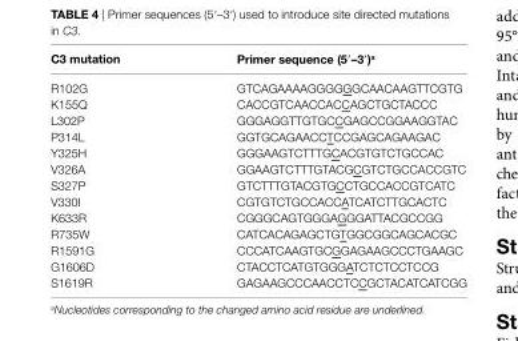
<table><thead><tr><td>c3 mutation</td><td>Primer sequence (5′–3′)<sup>a</sup></td></tr></thead><tbody><tr><td>R102G</td><td>GTCAGAAAAGGGGGGCAACAAGTTCGTG</td></tr><tr><td>K155Q</td><td>CACCGTCAACCACCAGCTGCTACCC</td></tr><tr><td>L302P</td><td>GGGAGGTTGTGCCGAGCCGGAAGGTAC</td></tr><tr><td>P314L</td><td>GGTGCAGAACCTCCGAGCAGAAGAC</td></tr><tr><td>Y325H</td><td>GGGAAGTCTTTGCACGTGTCTGCCAC</td></tr><tr><td>V326A</td><td>GGAAGTCTTTGTACGCGTCTGCCACCGTC</td></tr><tr><td>S327P</td><td>GTCTTTGTACGTGCCTGCCACCGTCATC</td></tr><tr><td>V330I</td><td>CGTGTCTGCCACCATCATCTTGCACTC</td></tr><tr><td>K633R</td><td>CGGGCAGTGGGAGGGATTACGCCGG</td></tr><tr><td>R735W</td><td>CATCACAGAGCTGTGGCGGCAGCACGC</td></tr><tr><td>R1591G</td><td>CCCATCAAGTGCGGAGAAGCCCTGAAGC</td></tr><tr><td>G1606D</td><td>CTACCTCATGTGGGATCTCTCCTCCG</td></tr><tr><td>S1619R</td><td>GAGAAGCCCAACCTCCGCTACATCATCGG</td></tr></tbody></table>